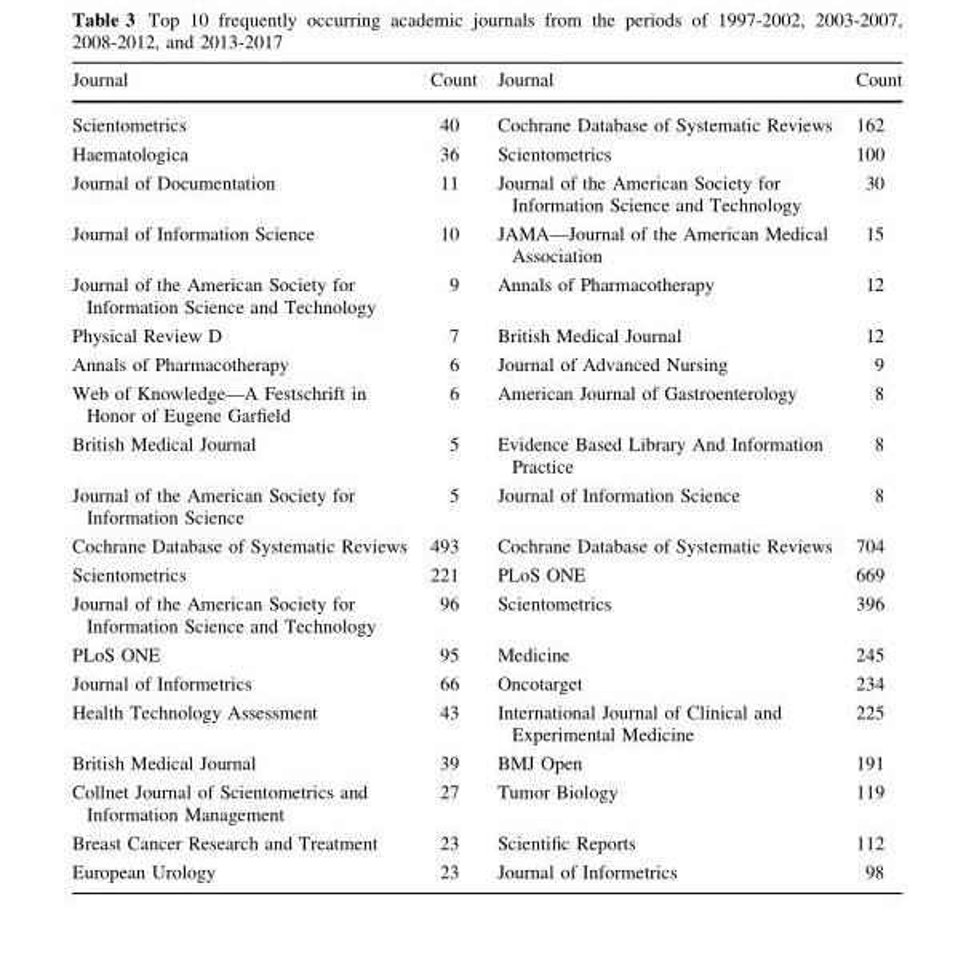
<table><thead><tr><td>Journal</td><td>Count</td><td>Journal</td><td>Count</td></tr></thead><tbody><tr><td>Scientometrics</td><td>40</td><td>Cochrane Database of Systematic Reviews</td><td>162</td></tr><tr><td>Haematologica</td><td>36</td><td>Scientometrics</td><td>100</td></tr><tr><td>Journal of Documentation</td><td>11</td><td>Journal of the American Society for Information Science and Technology</td><td>30</td></tr><tr><td>Journal of Information Science</td><td>10</td><td>JAMA—Journal of the American Medical Association</td><td>15</td></tr><tr><td>Journal of the American Society for Information Science and Technology</td><td>9</td><td>Annals of Pharmacotherapy</td><td>12</td></tr><tr><td>Physical Review D</td><td>7</td><td>British Medical Journal</td><td>12</td></tr><tr><td>Annals of Pharmacotherapy</td><td>6</td><td>Journal of Advanced Nursing</td><td>9</td></tr><tr><td>Web of Knowledge—A Festschrift in Honor of Eugene Garfield</td><td>6</td><td>American Journal of Gastroenterology</td><td>8</td></tr><tr><td>British Medical Journal</td><td>5</td><td>Evidence Based Library And Information Practice</td><td>8</td></tr><tr><td>Journal of the American Society for Information Science</td><td>5</td><td>Journal of Information Science</td><td>8</td></tr><tr><td>Cochrane Database of Systematic Reviews</td><td>493</td><td>Cochrane Database of Systematic Reviews</td><td>704</td></tr><tr><td>Scientometrics</td><td>221</td><td>PLoS ONE</td><td>669</td></tr><tr><td>Journal of the American Society for Information Science and Technology</td><td>96</td><td>Scientometrics</td><td>396</td></tr><tr><td>PLoS ONE</td><td>95</td><td>Medicine</td><td>245</td></tr><tr><td>Journal of Informetrics</td><td>66</td><td>Oncotarget</td><td>234</td></tr><tr><td>Health Technology Assessment</td><td>43</td><td>International Journal of Clinical and Experimental Medicine</td><td>225</td></tr><tr><td>British Medical Journal</td><td>39</td><td>BMJ Open</td><td>191</td></tr><tr><td>Collnet Journal of Scientometrics and Information Management</td><td>27</td><td>Tumor Biology</td><td>119</td></tr><tr><td>Breast Cancer Research and Treatment</td><td>23</td><td>Scientific Reports</td><td>112</td></tr><tr><td>European Urology</td><td>23</td><td>Journal of Informetrics</td><td>98</td></tr></tbody></table>